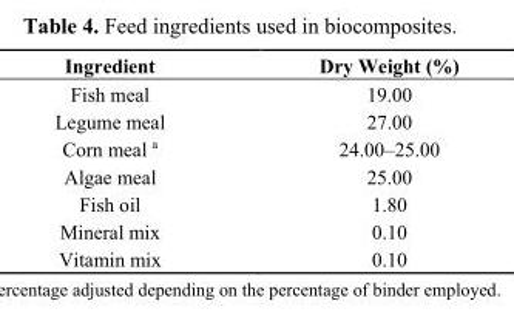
<table><thead><tr><td>Ingredient</td><td>Dry Weight (%)</td></tr></thead><tbody><tr><td>Fish meal</td><td>19.00</td></tr><tr><td>Legume meal</td><td>27.00</td></tr><tr><td>Corn meal <sup>a</sup></td><td>24.00–25.00</td></tr><tr><td>Algae meal</td><td>25.00</td></tr><tr><td>Fish oil</td><td>1.80</td></tr><tr><td>Mineral mix</td><td>0.10</td></tr><tr><td>Vitamin mix</td><td>0.10</td></tr></tbody></table>